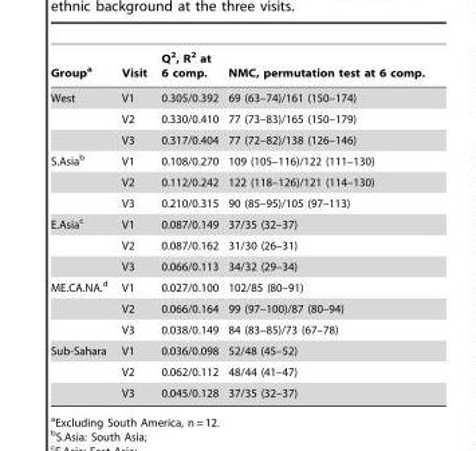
<table><thead><tr><td>Group<sup>a</sup></td><td>Visit</td><td>Q<sup>2</sup>, R<sup>2</sup> at 6 comp.</td><td>NMC, permutation test at 6 comp.</td></tr></thead><tbody><tr><td rowspan="3">West</td><td>V1</td><td>0.305/0.392</td><td>69 (63–74)/161 (150–174)</td></tr><tr><td>V2</td><td>0.330/0.410</td><td>77 (73–83)/165 (150–179)</td></tr><tr><td>V3</td><td>0.317/0.404</td><td>77 (72–82)/138 (126–146)</td></tr><tr><td rowspan="3">S.Asia<sup>b</sup></td><td>V1</td><td>0.108/0.270</td><td>109 (105–116)/122 (111–130)</td></tr><tr><td>V2</td><td>0.112/0.242</td><td>122 (118–126)/121 (114–130)</td></tr><tr><td>V3</td><td>0.210/0.315</td><td>90 (85–95)/105 (97–113)</td></tr><tr><td rowspan="3">E.Asia<sup>c</sup></td><td>V1</td><td>0.087/0.149</td><td>37/35 (32–37)</td></tr><tr><td>V2</td><td>0.087/0.162</td><td>31/30 (26–31)</td></tr><tr><td>V3</td><td>0.066/0.113</td><td>34/32 (29–34)</td></tr><tr><td rowspan="3">ME.CA.NA.<sup>d</sup></td><td>V1</td><td>0.027/0.100</td><td>102/85 (80–91)</td></tr><tr><td>V2</td><td>0.066/0.164</td><td>99 (97–100)/87 (80–94)</td></tr><tr><td>V3</td><td>0.038/0.149</td><td>84 (83–85)/73 (67–78)</td></tr><tr><td rowspan="3">Sub-Sahara</td><td>V1</td><td>0.036/0.098</td><td>52/48 (45–52)</td></tr><tr><td>V2</td><td>0.062/0.112</td><td>48/44 (41–47)</td></tr><tr><td>V3</td><td>0.045/0.128</td><td>37/35 (32–37)</td></tr></tbody></table>